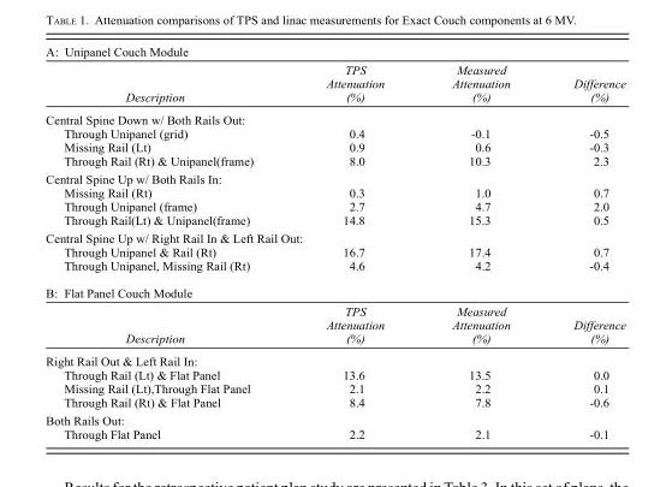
<table><thead><tr><td colspan="4">A: Unipanel Couch Module</td></tr><tr><td>Description</td><td>TPS Attenuation (%)</td><td>Measured Attenuation (%)</td><td>Difference (%)</td></tr></thead><tbody><tr><td colspan="4">Central Spine Down w/ Both Rails Out:</td></tr><tr><td>Through Unipanel (grid)</td><td>0.4</td><td>-0.1</td><td>-0.5</td></tr><tr><td>Missing Rail (Lt)</td><td>0.9</td><td>0.6</td><td>-0.3</td></tr><tr><td>Through Rail (Rt) &amp; Unipanel(frame)</td><td>8.0</td><td>10.3</td><td>2.3</td></tr><tr><td colspan="4">Central Spine Up w/ Both Rails In:</td></tr><tr><td>Missing Rail (Rt)</td><td>0.3</td><td>1.0</td><td>0.7</td></tr><tr><td>Through Unipanel (frame)</td><td>2.7</td><td>4.7</td><td>2.0</td></tr><tr><td>Through Rail(Lt) &amp; Unipanel(frame)</td><td>14.8</td><td>15.3</td><td>0.5</td></tr><tr><td colspan="4">Central Spine Up w/ Right Rail In &amp; Left Rail Out:</td></tr><tr><td>Through Unipanel &amp; Rail (Rt)</td><td>16.7</td><td>17.4</td><td>0.7</td></tr><tr><td>Through Unipanel, Missing Rail (Rt)</td><td>4.6</td><td>4.2</td><td>-0.4</td></tr><tr><td colspan="4">B: Flat Panel Couch Module</td></tr><tr><td>Description</td><td>TPS Attenuation (%)</td><td>Measured Attenuation (%)</td><td>Difference (%)</td></tr><tr><td colspan="4">Right Rail Out &amp; Left Rail In:</td></tr><tr><td>Through Rail (Lt) &amp; Flat Panel</td><td>13.6</td><td>13.5</td><td>0.0</td></tr><tr><td>Missing Rail (Lt),Through Flat Panel</td><td>2.1</td><td>2.2</td><td>0.1</td></tr><tr><td>Through Rail (Rt) &amp; Flat Panel</td><td>8.4</td><td>7.8</td><td>-0.6</td></tr><tr><td colspan="4">Both Rails Out:</td></tr><tr><td>Through Flat Panel</td><td>2.2</td><td>2.1</td><td>-0.1</td></tr></tbody></table>